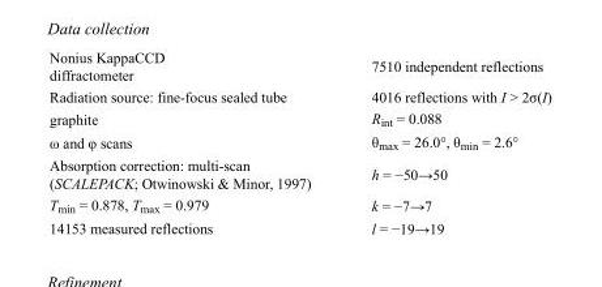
<table><tbody><tr><td>Nonius KappaCCD diffractometer</td><td>7510 independent reflections</td></tr><tr><td>Radiation source: fine-focus sealed tube</td><td>4016 reflections with I &gt; 2σ(I)</td></tr><tr><td>graphite</td><td>R<sub>int</sub> = 0.088</td></tr><tr><td>ω and φ scans</td><td>θ<sub>max</sub> = 26.0°, θ<sub>min</sub> = 2.6°</td></tr><tr><td>Absorption correction: multi-scan (SCALEPACK; Otwinowski &amp; Minor, 1997)</td><td>h = −50→50</td></tr><tr><td>T<sub>min</sub> = 0.878, T<sub>max</sub> = 0.979</td><td>k = −7→7</td></tr><tr><td>14153 measured reflections</td><td>l = −19→19</td></tr></tbody></table>